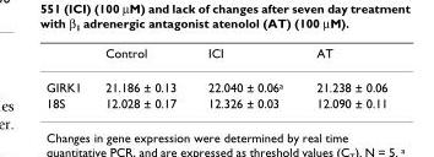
<table><thead><tr><td></td><td>Control</td><td>ICI</td><td>AT</td></tr></thead><tbody><tr><td>GIRK1</td><td>21.186 ± 0.13</td><td>22.040 ± 0.06a</td><td>21.238 ± 0.06</td></tr><tr><td>18S</td><td>12.028 ± 0.17</td><td>12.326 ± 0.03</td><td>12.090 ± 0.11</td></tr></tbody></table>